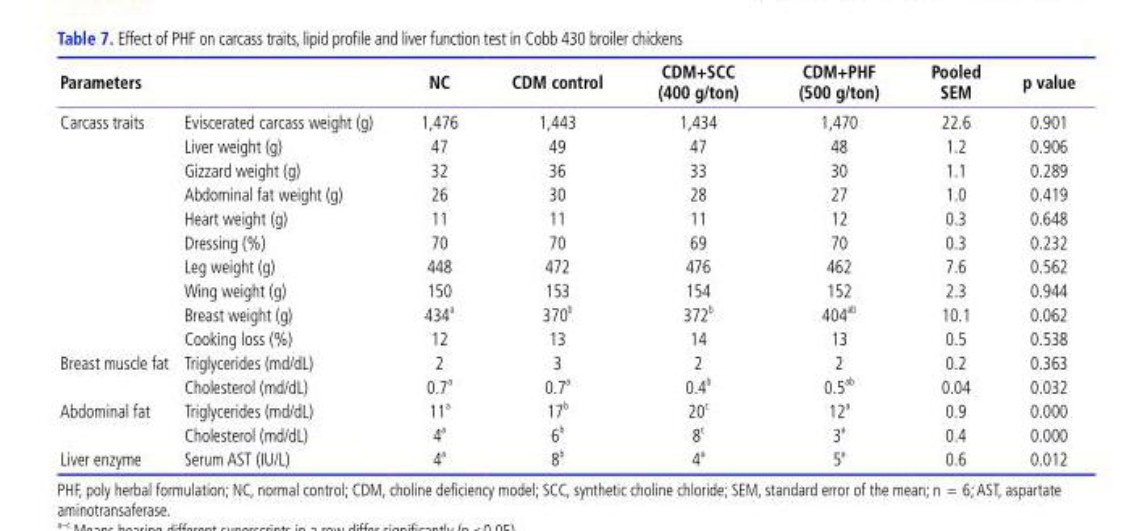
<table><thead><tr><td>Parameters</td><td></td><td>NC</td><td>CDM control</td><td>CDM+SCC (400 g/ton)</td><td>CDM+PHF (500 g/ton)</td><td>Pooled SEM</td><td>p value</td></tr></thead><tbody><tr><td rowspan="10">Carcass traits</td><td>Eviscerated carcass weight (g)</td><td>1,476</td><td>1,443</td><td>1,434</td><td>1,470</td><td>22.6</td><td>0.901</td></tr><tr><td>Liver weight (g)</td><td>47</td><td>49</td><td>47</td><td>48</td><td>1.2</td><td>0.906</td></tr><tr><td>Gizzard weight (g)</td><td>32</td><td>36</td><td>33</td><td>30</td><td>1.1</td><td>0.289</td></tr><tr><td>Abdominal fat weight (g)</td><td>26</td><td>30</td><td>28</td><td>27</td><td>1.0</td><td>0.419</td></tr><tr><td>Heart weight (g)</td><td>11</td><td>11</td><td>11</td><td>12</td><td>0.3</td><td>0.648</td></tr><tr><td>Dressing (%)</td><td>70</td><td>70</td><td>69</td><td>70</td><td>0.3</td><td>0.232</td></tr><tr><td>Leg weight (g)</td><td>448</td><td>472</td><td>476</td><td>462</td><td>7.6</td><td>0.562</td></tr><tr><td>Wing weight (g)</td><td>150</td><td>153</td><td>154</td><td>152</td><td>2.3</td><td>0.944</td></tr><tr><td>Breast weight (g)</td><td>434 <sup>a</sup></td><td>370 <sup>b</sup></td><td>372 <sup>b</sup></td><td>404 <sup>ab</sup></td><td>10.1</td><td>0.062</td></tr><tr><td>Cooking loss (%)</td><td>12</td><td>13</td><td>14</td><td>13</td><td>0.5</td><td>0.538</td></tr><tr><td rowspan="2">Breast muscle fat</td><td>Triglycerides (md/dL)</td><td>2</td><td>3</td><td>2</td><td>2</td><td>0.2</td><td>0.363</td></tr><tr><td>Cholesterol (md/dL)</td><td>0.7 <sup>a</sup></td><td>0.7 <sup>a</sup></td><td>0.4 <sup>b</sup></td><td>0.5 <sup>ab</sup></td><td>0.04</td><td>0.032</td></tr><tr><td rowspan="2">Abdominal fat</td><td>Triglycerides (md/dL)</td><td>11 <sup>a</sup></td><td>17 <sup>b</sup></td><td>20 <sup>c</sup></td><td>12 <sup>a</sup></td><td>0.9</td><td>0.000</td></tr><tr><td>Cholesterol (md/dL)</td><td>4 <sup>a</sup></td><td>6 <sup>b</sup></td><td>8 <sup>c</sup></td><td>3 <sup>a</sup></td><td>0.4</td><td>0.000</td></tr><tr><td>Liver enzyme</td><td>Serum AST (IU/L)</td><td>4 <sup>a</sup></td><td>8 <sup>b</sup></td><td>4 <sup>a</sup></td><td>5 <sup>a</sup></td><td>0.6</td><td>0.012</td></tr></tbody></table>